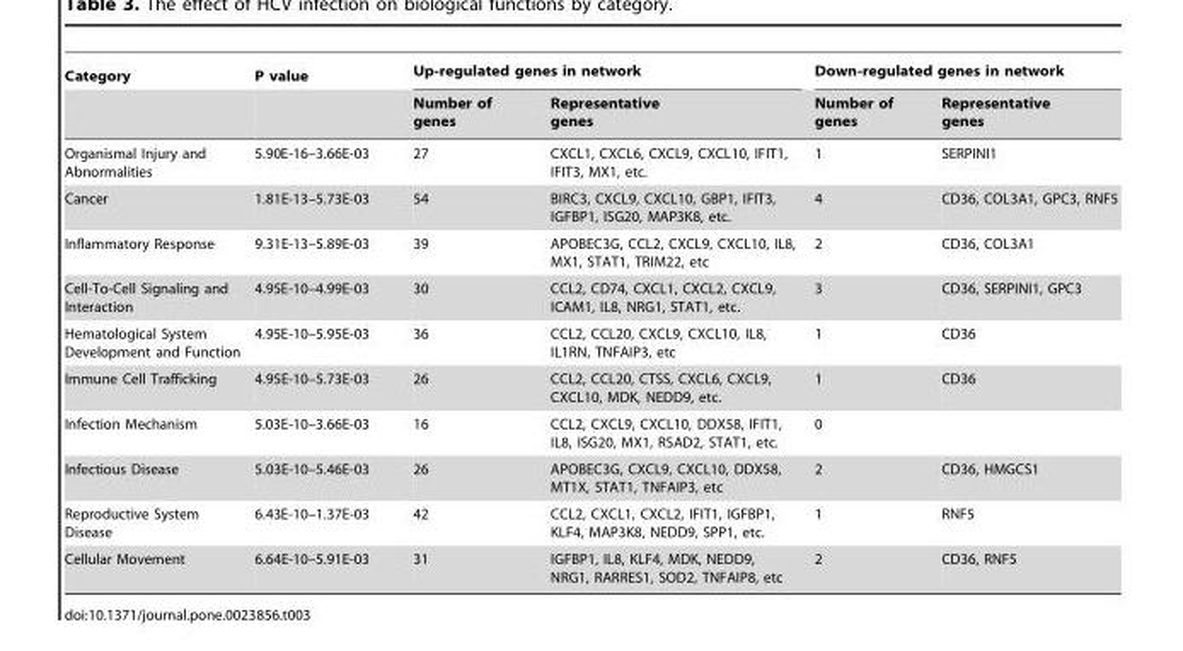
<table><thead><tr><td rowspan="2">Category</td><td rowspan="2">P value</td><td colspan="2">Up-regulated genes in network</td><td colspan="2">Down-regulated genes in network</td></tr><tr><td>Number of genes</td><td>Representative genes</td><td>Number of genes</td><td>Representative genes</td></tr></thead><tbody><tr><td>Organismal Injury and Abnormalities</td><td>5.90E-16–3.66E-03</td><td>27</td><td>CXCL1, CXCL6, CXCL9, CXCL10, IFIT1, IFIT3, MX1, etc.</td><td>1</td><td>SERPINI1</td></tr><tr><td>Cancer</td><td>1.81E-13–5.73E-03</td><td>54</td><td>BIRC3, CXCL9, CXCL10, GBP1, IFIT3, IGFBP1, ISG20, MAP3K8, etc.</td><td>4</td><td>CD36, COL3A1, GPC3, RNF5</td></tr><tr><td>Inflammatory Response</td><td>9.31E-13–5.89E-03</td><td>39</td><td>APOBEC3G, CCL2, CXCL9, CXCL10, IL8, MX1, STAT1, TRIM22, etc</td><td>2</td><td>CD36, COL3A1</td></tr><tr><td>Cell-To-Cell Signaling and Interaction</td><td>4.95E-10–4.99E-03</td><td>30</td><td>CCL2, CD74, CXCL1, CXCL2, CXCL9, ICAM1, IL8, NRG1, STAT1, etc.</td><td>3</td><td>CD36, SERPINI1, GPC3</td></tr><tr><td>Hematological System Development and Function</td><td>4.95E-10–5.95E-03</td><td>36</td><td>CCL2, CCL20, CXCL9, CXCL10, IL8, IL1RN, TNFAIP3, etc</td><td>1</td><td>CD36</td></tr><tr><td>Immune Cell Trafficking</td><td>4.95E-10–5.73E-03</td><td>26</td><td>CCL2, CCL20, CTSS, CXCL6, CXCL9, CXCL10, MDK, NEDD9, etc.</td><td>1</td><td>CD36</td></tr><tr><td>Infection Mechanism</td><td>5.03E-10–3.66E-03</td><td>16</td><td>CCL2, CXCL9, CXCL10, DDX58, IFIT1, IL8, ISG20, MX1, RSAD2, STAT1, etc.</td><td>0</td><td></td></tr><tr><td>Infectious Disease</td><td>5.03E-10–5.46E-03</td><td>26</td><td>APOBEC3G, CXCL9, CXCL10, DDX58, MT1X, STAT1, TNFAIP3, etc</td><td>2</td><td>CD36, HMGCS1</td></tr><tr><td>Reproductive System Disease</td><td>6.43E-10–1.37E-03</td><td>42</td><td>CCL2, CXCL1, CXCL2, IFIT1, IGFBP1, KLF4, MAP3K8, NEDD9, SPP1, etc.</td><td>1</td><td>RNF5</td></tr><tr><td>Cellular Movement</td><td>6.64E-10–5.91E-03</td><td>31</td><td>IGFBP1, IL8, KLF4, MDK, NEDD9, NRG1, RARRES1, SOD2, TNFAIP8, etc</td><td>2</td><td>CD36, RNF5</td></tr></tbody></table>